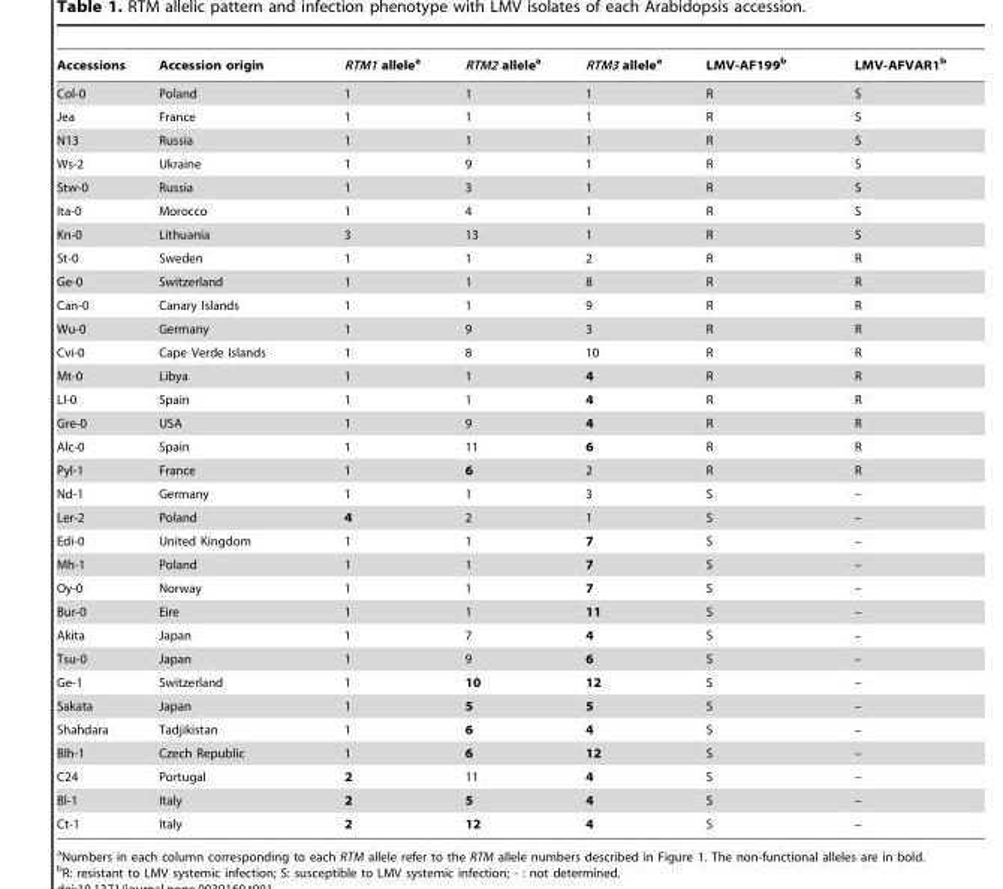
<table><thead><tr><td>Accessions</td><td>Accession origin</td><td>RTM1 allele<sup>a</sup></td><td>RTM2 allele<sup>a</sup></td><td>RTM3 allele<sup>a</sup></td><td>LMV-AF199<sup>b</sup></td><td>LMV-AFVAR1<sup>b</sup></td></tr></thead><tbody><tr><td>Col-0</td><td>Poland</td><td>1</td><td>1</td><td>1</td><td>R</td><td>S</td></tr><tr><td>Jea</td><td>France</td><td>1</td><td>1</td><td>1</td><td>R</td><td>S</td></tr><tr><td>N13</td><td>Russia</td><td>1</td><td>1</td><td>1</td><td>R</td><td>S</td></tr><tr><td>Ws-2</td><td>Ukraine</td><td>1</td><td>9</td><td>1</td><td>R</td><td>S</td></tr><tr><td>Stw-0</td><td>Russia</td><td>1</td><td>3</td><td>1</td><td>R</td><td>S</td></tr><tr><td>Ita-0</td><td>Morocco</td><td>1</td><td>4</td><td>1</td><td>R</td><td>S</td></tr><tr><td>Kn-0</td><td>Lithuania</td><td>3</td><td>13</td><td>1</td><td>R</td><td>S</td></tr><tr><td>St-0</td><td>Sweden</td><td>1</td><td>1</td><td>2</td><td>R</td><td>R</td></tr><tr><td>Ge-0</td><td>Switzerland</td><td>1</td><td>1</td><td>8</td><td>R</td><td>R</td></tr><tr><td>Can-0</td><td>Canary Islands</td><td>1</td><td>1</td><td>9</td><td>R</td><td>R</td></tr><tr><td>Wu-0</td><td>Germany</td><td>1</td><td>9</td><td>3</td><td>R</td><td>R</td></tr><tr><td>Cvi-0</td><td>Cape Verde Islands</td><td>1</td><td>8</td><td>10</td><td>R</td><td>R</td></tr><tr><td>Mt-0</td><td>Libya</td><td>1</td><td>1</td><td>4</td><td>R</td><td>R</td></tr><tr><td>Ll-0</td><td>Spain</td><td>1</td><td>1</td><td>4</td><td>R</td><td>R</td></tr><tr><td>Gre-0</td><td>USA</td><td>1</td><td>9</td><td>4</td><td>R</td><td>R</td></tr><tr><td>Alc-0</td><td>Spain</td><td>1</td><td>11</td><td>6</td><td>R</td><td>R</td></tr><tr><td>Pyl-1</td><td>France</td><td>1</td><td>6</td><td>2</td><td>R</td><td>R</td></tr><tr><td>Nd-1</td><td>Germany</td><td>1</td><td>1</td><td>3</td><td>S</td><td>–</td></tr><tr><td>Ler-2</td><td>Poland</td><td>4</td><td>2</td><td>1</td><td>S</td><td>–</td></tr><tr><td>Edi-0</td><td>United Kingdom</td><td>1</td><td>1</td><td>7</td><td>S</td><td>–</td></tr><tr><td>Mh-1</td><td>Poland</td><td>1</td><td>1</td><td>7</td><td>S</td><td>–</td></tr><tr><td>Oy-0</td><td>Norway</td><td>1</td><td>1</td><td>7</td><td>S</td><td>–</td></tr><tr><td>Bur-0</td><td>Eire</td><td>1</td><td>1</td><td>11</td><td>S</td><td>–</td></tr><tr><td>Akita</td><td>Japan</td><td>1</td><td>7</td><td>4</td><td>S</td><td>–</td></tr><tr><td>Tsu-0</td><td>Japan</td><td>1</td><td>9</td><td>6</td><td>S</td><td>–</td></tr><tr><td>Ge-1</td><td>Switzerland</td><td>1</td><td>10</td><td>12</td><td>S</td><td>–</td></tr><tr><td>Sakata</td><td>Japan</td><td>1</td><td>5</td><td>5</td><td>S</td><td>–</td></tr><tr><td>Shahdara</td><td>Tadjikistan</td><td>1</td><td>6</td><td>4</td><td>S</td><td>–</td></tr><tr><td>Blh-1</td><td>Czech Republic</td><td>1</td><td>6</td><td>12</td><td>S</td><td>–</td></tr><tr><td>C24</td><td>Portugal</td><td>2</td><td>11</td><td>4</td><td>S</td><td>–</td></tr><tr><td>Bl-1</td><td>Italy</td><td>2</td><td>5</td><td>4</td><td>S</td><td>–</td></tr><tr><td>Ct-1</td><td>Italy</td><td>2</td><td>12</td><td>4</td><td>S</td><td>–</td></tr></tbody></table>